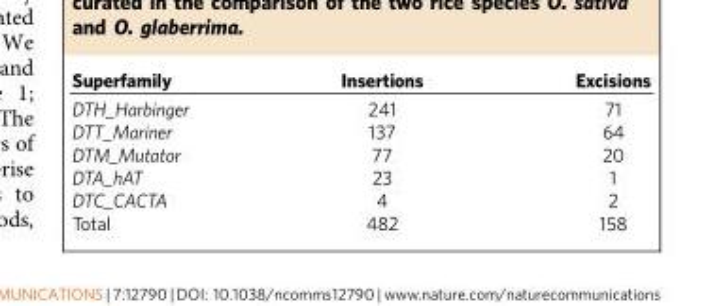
<table><thead><tr><td>Superfamily</td><td>Insertions</td><td>Excisions</td></tr></thead><tbody><tr><td>DTH_Harbinger</td><td>241</td><td>71</td></tr><tr><td>DTT_Mariner</td><td>137</td><td>64</td></tr><tr><td>DTM_Mutator</td><td>77</td><td>20</td></tr><tr><td>DTA_hAT</td><td>23</td><td>1</td></tr><tr><td>DTC_CACTA</td><td>4</td><td>2</td></tr><tr><td>Total</td><td>482</td><td>158</td></tr></tbody></table>